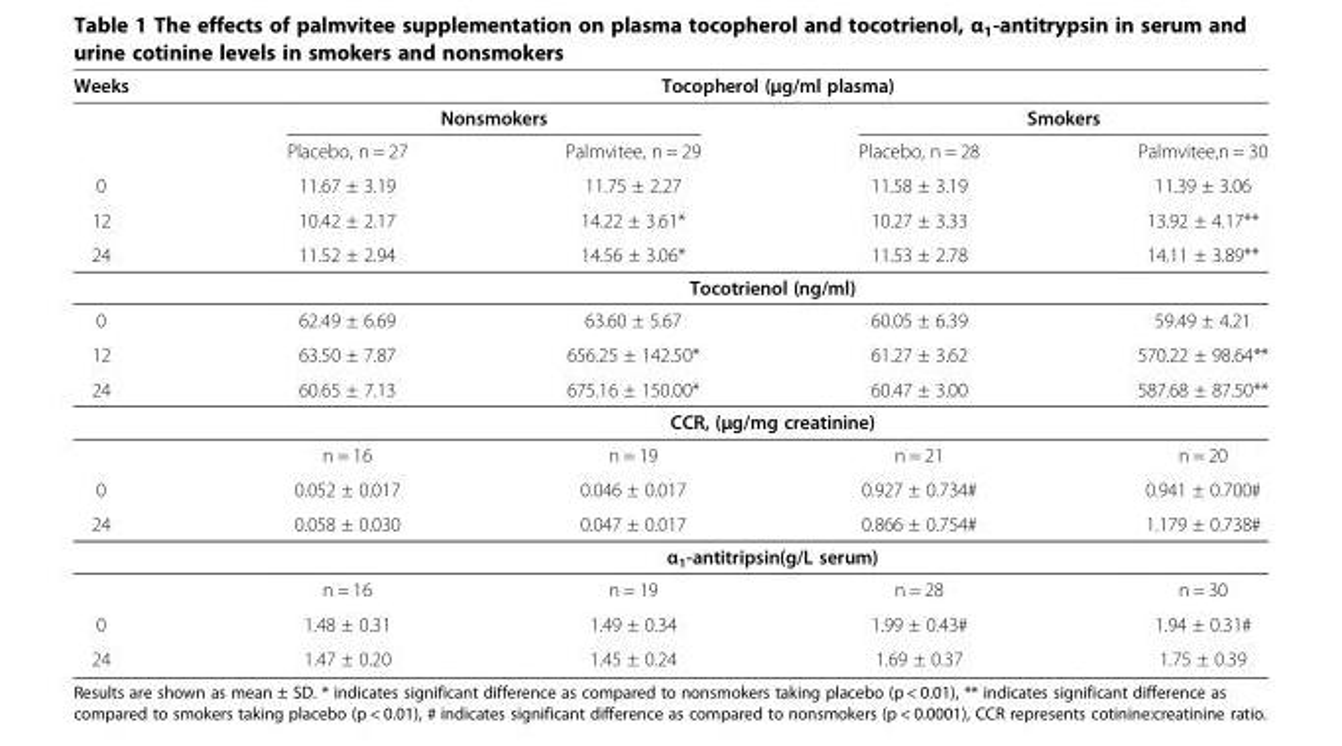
<table><thead><tr><td rowspan="3">Weeks</td><td colspan="4">Tocopherol (μg/ml plasma)</td></tr><tr><td colspan="2">Nonsmokers</td><td colspan="2">Smokers</td></tr><tr><td>Placebo, n = 27</td><td>Palmvitee, n = 29</td><td>Placebo, n = 28</td><td>Palmvitee,n = 30</td></tr></thead><tbody><tr><td>0</td><td>11.67 ± 3.19</td><td>11.75 ± 2.27</td><td>11.58 ± 3.19</td><td>11.39 ± 3.06</td></tr><tr><td>12</td><td>10.42 ± 2.17</td><td>14.22 ± 3.61*</td><td>10.27 ± 3.33</td><td>13.92 ± 4.17**</td></tr><tr><td rowspan="2">24</td><td>11.52 ± 2.94</td><td>14.56 ± 3.06*</td><td>11.53 ± 2.78</td><td>14.11 ± 3.89**</td></tr><tr><td></td><td colspan="2">Tocotrienol (ng/ml)</td><td></td></tr><tr><td>0</td><td>62.49 ± 6.69</td><td>63.60 ± 5.67</td><td>60.05 ± 6.39</td><td>59.49 ± 4.21</td></tr><tr><td>12</td><td>63.50 ± 7.87</td><td>656.25 ± 142.50*</td><td>61.27 ± 3.62</td><td>570.22 ± 98.64**</td></tr><tr><td rowspan="3">24</td><td>60.65 ± 7.13</td><td>675.16 ± 150.00*</td><td>60.47 ± 3.00</td><td>587.68 ± 87.50**</td></tr><tr><td></td><td colspan="2">CCR, (μg/mg creatinine)</td><td></td></tr><tr><td>n = 16</td><td>n = 19</td><td>n = 21</td><td>n = 20</td></tr><tr><td>0</td><td>0.052 ± 0.017</td><td>0.046 ± 0.017</td><td>0.927 ± 0.734#</td><td>0.941 ± 0.700#</td></tr><tr><td rowspan="3">24</td><td>0.058 ± 0.030</td><td>0.047 ± 0.017</td><td>0.866 ± 0.754#</td><td>1.179 ± 0.738#</td></tr><tr><td></td><td colspan="2">α<sub>1</sub>-antitripsin(g/L serum)</td><td></td></tr><tr><td>n = 16</td><td>n = 19</td><td>n = 28</td><td>n = 30</td></tr><tr><td>0</td><td>1.48 ± 0.31</td><td>1.49 ± 0.34</td><td>1.99 ± 0.43#</td><td>1.94 ± 0.31#</td></tr><tr><td>24</td><td>1.47 ± 0.20</td><td>1.45 ± 0.24</td><td>1.69 ± 0.37</td><td>1.75 ± 0.39</td></tr></tbody></table>